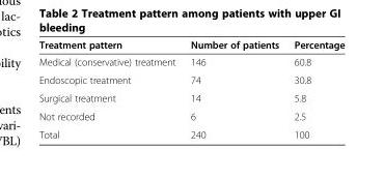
<table><thead><tr><td>Treatment pattern</td><td>Number of patients</td><td>Percentage</td></tr></thead><tbody><tr><td>Medical (conservative) treatment</td><td>146</td><td>60.8</td></tr><tr><td>Endoscopic treatment</td><td>74</td><td>30.8</td></tr><tr><td>Surgical treatment</td><td>14</td><td>5.8</td></tr><tr><td>Not recorded</td><td>6</td><td>2.5</td></tr><tr><td>Total</td><td>240</td><td>100</td></tr></tbody></table>